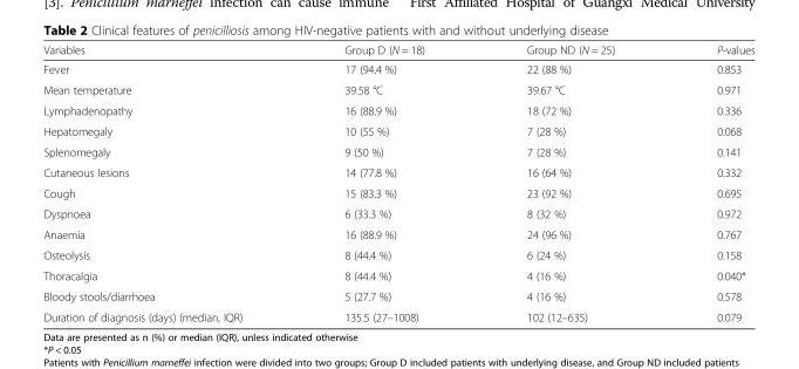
<table><thead><tr><td>Variables</td><td>Group D (N = 18)</td><td>Group ND (N = 25)</td><td>P-values</td></tr></thead><tbody><tr><td>Fever</td><td>17 (94.4 %)</td><td>22 (88 %)</td><td>0.853</td></tr><tr><td>Mean temperature</td><td>39.58 °C</td><td>39.67 °C</td><td>0.971</td></tr><tr><td>Lymphadenopathy</td><td>16 (88.9 %)</td><td>18 (72 %)</td><td>0.336</td></tr><tr><td>Hepatomegaly</td><td>10 (55 %)</td><td>7 (28 %)</td><td>0.068</td></tr><tr><td>Splenomegaly</td><td>9 (50 %)</td><td>7 (28 %)</td><td>0.141</td></tr><tr><td>Cutaneous lesions</td><td>14 (77.8 %)</td><td>16 (64 %)</td><td>0.332</td></tr><tr><td>Cough</td><td>15 (83.3 %)</td><td>23 (92 %)</td><td>0.695</td></tr><tr><td>Dyspnoea</td><td>6 (33.3 %)</td><td>8 (32 %)</td><td>0.972</td></tr><tr><td>Anaemia</td><td>16 (88.9 %)</td><td>24 (96 %)</td><td>0.767</td></tr><tr><td>Osteolysis</td><td>8 (44.4 %)</td><td>6 (24 %)</td><td>0.158</td></tr><tr><td>Thoracalgia</td><td>8 (44.4 %)</td><td>4 (16 %)</td><td>0.040*</td></tr><tr><td>Bloody stools/diarrhoea</td><td>5 (27.7 %)</td><td>4 (16 %)</td><td>0.578</td></tr><tr><td>Duration of diagnosis (days) (median, IQR)</td><td>135.5 (27–1008)</td><td>102 (12–635)</td><td>0.079</td></tr></tbody></table>